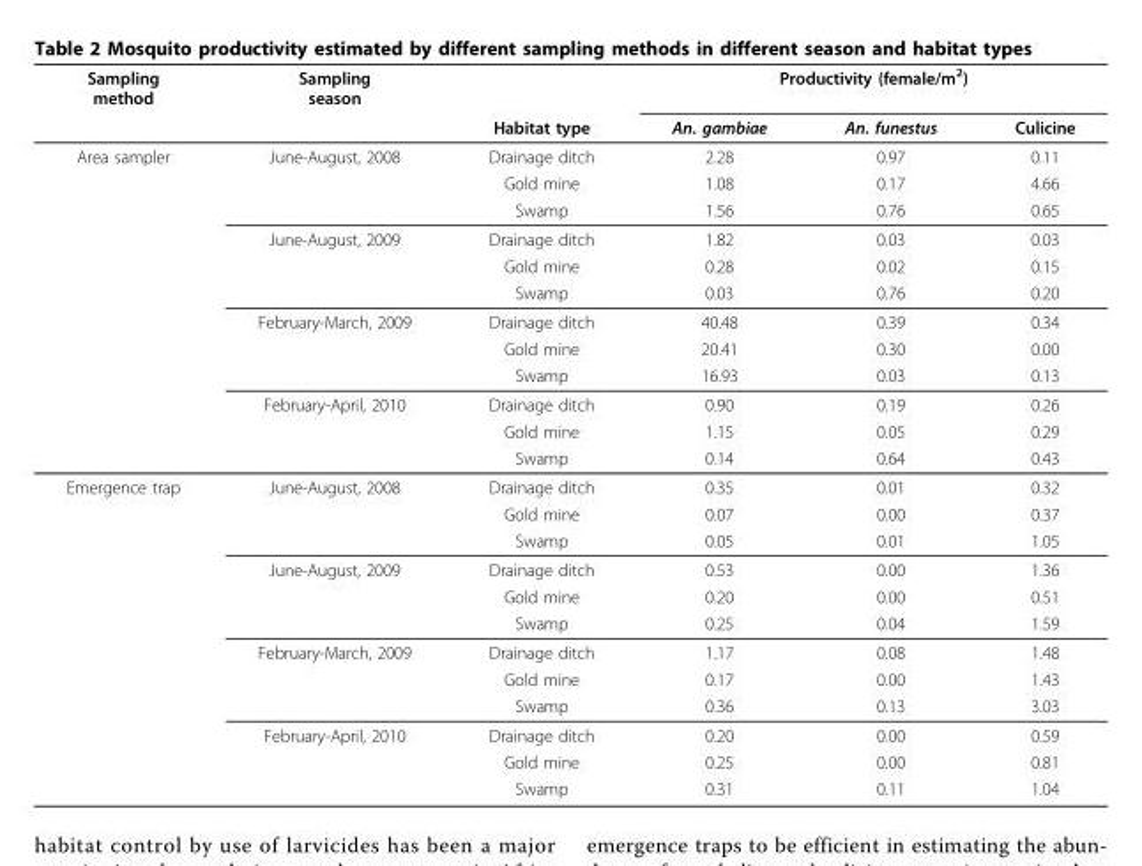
<table><thead><tr><td rowspan="2">Sampling method</td><td rowspan="2">Sampling season</td><td rowspan="2">Habitat type</td><td colspan="3">Productivity (female/m<sup>2</sup>)</td></tr><tr><td>An. gambiae</td><td>An. funestus</td><td>Culicine</td></tr></thead><tbody><tr><td rowspan="12">Area sampler</td><td>June-August, 2008</td><td>Drainage ditch</td><td>2.28</td><td>0.97</td><td>0.11</td></tr><tr><td></td><td>Gold mine</td><td>1.08</td><td>0.17</td><td>4.66</td></tr><tr><td></td><td>Swamp</td><td>1.56</td><td>0.76</td><td>0.65</td></tr><tr><td>June-August, 2009</td><td>Drainage ditch</td><td>1.82</td><td>0.03</td><td>0.03</td></tr><tr><td></td><td>Gold mine</td><td>0.28</td><td>0.02</td><td>0.15</td></tr><tr><td></td><td>Swamp</td><td>0.03</td><td>0.76</td><td>0.20</td></tr><tr><td>February-March, 2009</td><td>Drainage ditch</td><td>40.48</td><td>0.39</td><td>0.34</td></tr><tr><td></td><td>Gold mine</td><td>20.41</td><td>0.30</td><td>0.00</td></tr><tr><td></td><td>Swamp</td><td>16.93</td><td>0.03</td><td>0.13</td></tr><tr><td>February-April, 2010</td><td>Drainage ditch</td><td>0.90</td><td>0.19</td><td>0.26</td></tr><tr><td></td><td>Gold mine</td><td>1.15</td><td>0.05</td><td>0.29</td></tr><tr><td></td><td>Swamp</td><td>0.14</td><td>0.64</td><td>0.43</td></tr><tr><td rowspan="12">Emergence trap</td><td>June-August, 2008</td><td>Drainage ditch</td><td>0.35</td><td>0.01</td><td>0.32</td></tr><tr><td></td><td>Gold mine</td><td>0.07</td><td>0.00</td><td>0.37</td></tr><tr><td></td><td>Swamp</td><td>0.05</td><td>0.01</td><td>1.05</td></tr><tr><td>June-August, 2009</td><td>Drainage ditch</td><td>0.53</td><td>0.00</td><td>1.36</td></tr><tr><td></td><td>Gold mine</td><td>0.20</td><td>0.00</td><td>0.51</td></tr><tr><td></td><td>Swamp</td><td>0.25</td><td>0.04</td><td>1.59</td></tr><tr><td>February-March, 2009</td><td>Drainage ditch</td><td>1.17</td><td>0.08</td><td>1.48</td></tr><tr><td></td><td>Gold mine</td><td>0.17</td><td>0.00</td><td>1.43</td></tr><tr><td></td><td>Swamp</td><td>0.36</td><td>0.13</td><td>3.03</td></tr><tr><td>February-April, 2010</td><td>Drainage ditch</td><td>0.20</td><td>0.00</td><td>0.59</td></tr><tr><td></td><td>Gold mine</td><td>0.25</td><td>0.00</td><td>0.81</td></tr><tr><td></td><td>Swamp</td><td>0.31</td><td>0.11</td><td>1.04</td></tr></tbody></table>